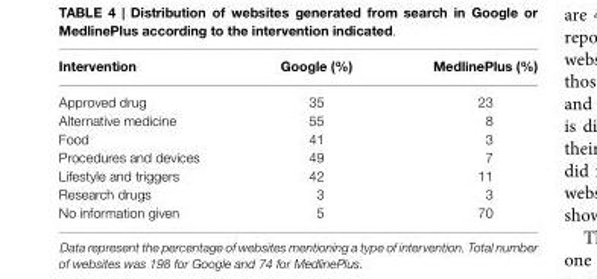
<table><thead><tr><td>Intervention</td><td>Google (%)</td><td>MedlinePlus (%)</td></tr></thead><tbody><tr><td>Approved drug</td><td>35</td><td>23</td></tr><tr><td>Alternative medicine</td><td>55</td><td>8</td></tr><tr><td>Food</td><td>41</td><td>3</td></tr><tr><td>Procedures and devices</td><td>49</td><td>7</td></tr><tr><td>Lifestyle and triggers</td><td>42</td><td>11</td></tr><tr><td>Research drugs</td><td>3</td><td>3</td></tr><tr><td>No information given</td><td>5</td><td>70</td></tr></tbody></table>